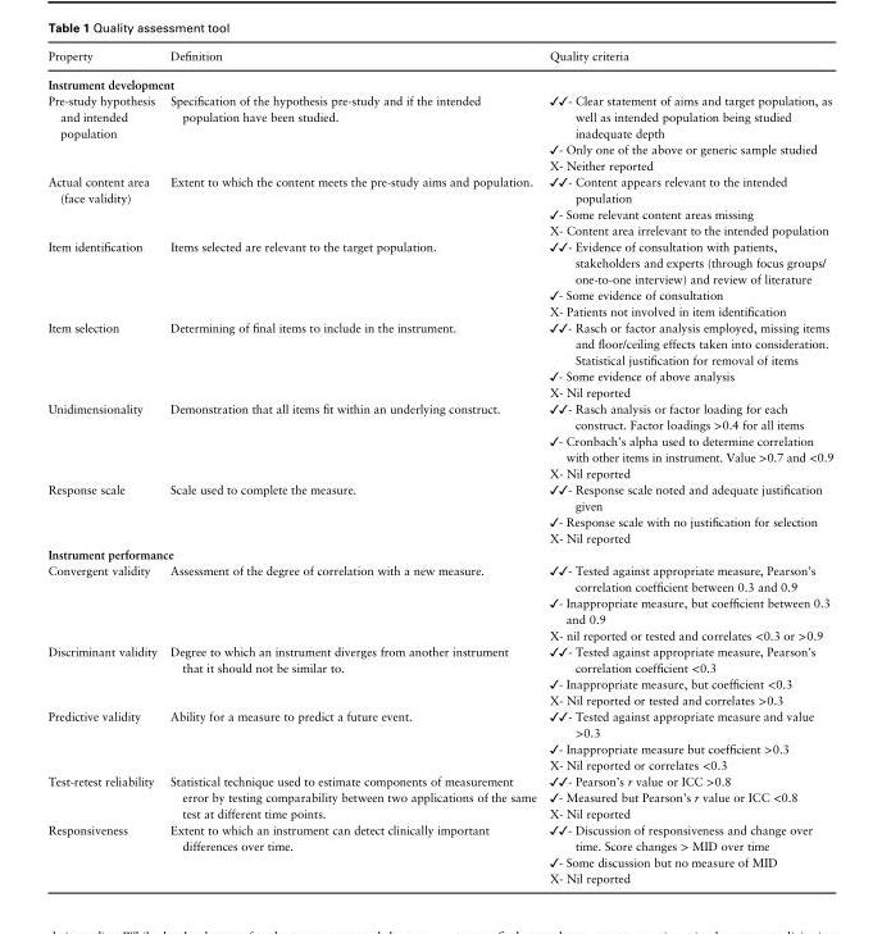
<table><thead><tr><td>Property</td><td>Definition</td><td>Quality criteria</td></tr></thead><tbody><tr><td colspan="3">Instrument development</td></tr><tr><td>Pre-study hypothesis and intended population</td><td>Specification of the hypothesis pre-study and if the intended population have been studied.</td><td>✓✓- Clear statement of aims and target population, as well as intended population being studied inadequate depth ✓- Only one of the above or generic sample studied X- Neither reported</td></tr><tr><td>Actual content area (face validity)</td><td>Extent to which the content meets the pre-study aims and population.</td><td>✓✓- Content appears relevant to the intended population ✓- Some relevant content areas missing X- Content area irrelevant to the intended population</td></tr><tr><td>Item identification</td><td>Items selected are relevant to the target population.</td><td>✓✓- Evidence of consultation with patients, stakeholders and experts (through focus groups/ one-to-one interview) and review of literature ✓- Some evidence of consultation X- Patients not involved in item identification</td></tr><tr><td>Item selection</td><td>Determining of final items to include in the instrument.</td><td>✓✓- Rasch or factor analysis employed, missing items and floor/ceiling effects taken into consideration. Statistical justification for removal of items ✓- Some evidence of above analysis X- Nil reported</td></tr><tr><td>Unidimensionality</td><td>Demonstration that all items fit within an underlying construct.</td><td>✓✓- Rasch analysis or factor loading for each construct. Factor loadings &gt;0.4 for all items ✓- Cronbach’s alpha used to determine correlation with other items in instrument. Value &gt;0.7 and &lt;0.9 X- Nil reported</td></tr><tr><td>Response scale</td><td>Scale used to complete the measure.</td><td>✓✓- Response scale noted and adequate justification given ✓- Response scale with no justification for selection X- Nil reported</td></tr><tr><td colspan="3">Instrument performance</td></tr><tr><td>Convergent validity</td><td>Assessment of the degree of correlation with a new measure.</td><td>✓✓- Tested against appropriate measure, Pearson’s correlation coefficient between 0.3 and 0.9 ✓- Inappropriate measure, but coefficient between 0.3 and 0.9 X- nil reported or tested and correlates &lt;0.3 or &gt;0.9</td></tr><tr><td>Discriminant validity</td><td>Degree to which an instrument diverges from another instrument that it should not be similar to.</td><td>✓✓- Tested against appropriate measure, Pearson’s correlation coefficient &lt;0.3 ✓- Inappropriate measure, but coefficient &lt;0.3 X- Nil reported or tested and correlates &gt;0.3</td></tr><tr><td>Predictive validity</td><td>Ability for a measure to predict a future event.</td><td>✓✓- Tested against appropriate measure and value &gt;0.3 ✓- Inappropriate measure but coefficient &gt;0.3 X- Nil reported or correlates &lt;0.3</td></tr><tr><td>Test-retest reliability</td><td>Statistical technique used to estimate components of measurement error by testing comparability between two applications of the same test at different time points.</td><td>✓✓- Pearson’s r value or ICC &gt;0.8 ✓- Measured but Pearson’s r value or ICC &lt;0.8 X- Nil reported</td></tr><tr><td>Responsiveness</td><td>Extent to which an instrument can detect clinically important differences over time.</td><td>✓✓- Discussion of responsiveness and change over time. Score changes &gt; MID over time ✓- Some discussion but no measure of MID X- Nil reported</td></tr></tbody></table>